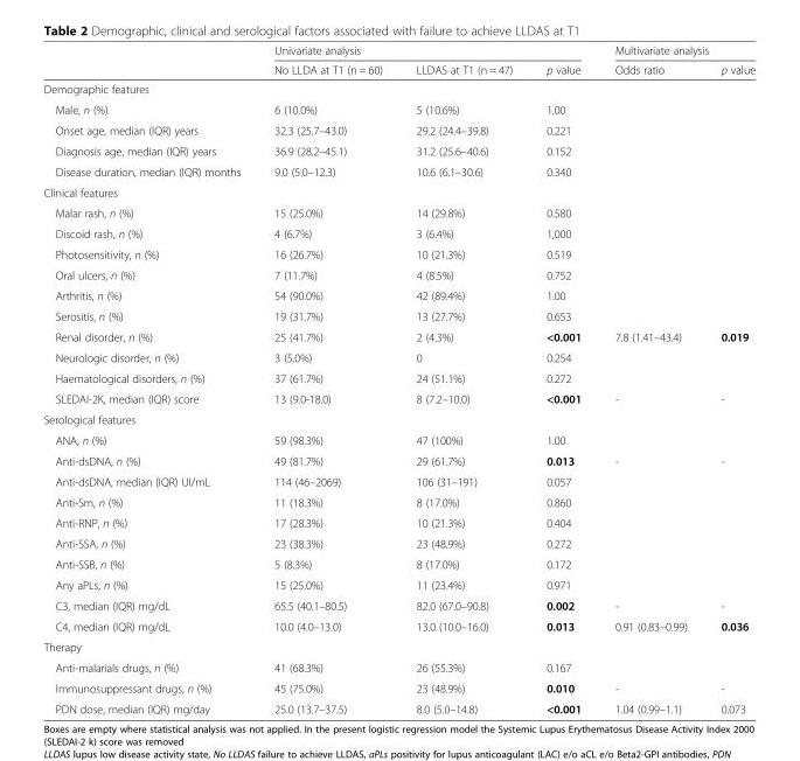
<table><thead><tr><td rowspan="2"></td><td colspan="3">Univariate analysis</td><td colspan="2">Multivariate analysis</td></tr><tr><td>No LLDA at T1 (n = 60)</td><td>LLDAS at T1 (n = 47)</td><td>p value</td><td>Odds ratio</td><td>p value</td></tr></thead><tbody><tr><td colspan="6">Demographic features</td></tr><tr><td>Male, n (%)</td><td>6 (10.0%)</td><td>5 (10.6%)</td><td>1.00</td><td></td><td></td></tr><tr><td>Onset age, median (IQR) years</td><td>32.3 (25.7–43.0)</td><td>29.2 (24.4–39.8)</td><td>0.221</td><td></td><td></td></tr><tr><td>Diagnosis age, median (IQR) years</td><td>36.9 (28.2–45.1)</td><td>31.2 (25.6–40.6)</td><td>0.152</td><td></td><td></td></tr><tr><td>Disease duration, median (IQR) months</td><td>9.0 (5.0–12.3)</td><td>10.6 (6.1–30.6)</td><td>0.340</td><td></td><td></td></tr><tr><td colspan="6">Clinical features</td></tr><tr><td>Malar rash, n (%)</td><td>15 (25.0%)</td><td>14 (29.8%)</td><td>0.580</td><td></td><td></td></tr><tr><td>Discoid rash, n (%)</td><td>4 (6.7%)</td><td>3 (6.4%)</td><td>1,000</td><td></td><td></td></tr><tr><td>Photosensitivity, n (%)</td><td>16 (26.7%)</td><td>10 (21.3%)</td><td>0.519</td><td></td><td></td></tr><tr><td>Oral ulcers, n (%)</td><td>7 (11.7%)</td><td>4 (8.5%)</td><td>0.752</td><td></td><td></td></tr><tr><td>Arthritis, n (%)</td><td>54 (90.0%)</td><td>42 (89.4%)</td><td>1.00</td><td></td><td></td></tr><tr><td>Serositis, n (%)</td><td>19 (31.7%)</td><td>13 (27.7%)</td><td>0.653</td><td></td><td></td></tr><tr><td>Renal disorder, n (%)</td><td>25 (41.7%)</td><td>2 (4.3%)</td><td>&lt;0.001</td><td>7.8 (1.41–43.4)</td><td>0.019</td></tr><tr><td>Neurologic disorder, n (%)</td><td>3 (5.0%)</td><td>0</td><td>0.254</td><td></td><td></td></tr><tr><td>Haematological disorders, n (%)</td><td>37 (61.7%)</td><td>24 (51.1%)</td><td>0.272</td><td></td><td></td></tr><tr><td>SLEDAI-2K, median (IQR) score</td><td>13 (9.0-18.0)</td><td>8 (7.2–10.0)</td><td>&lt;0.001</td><td>-</td><td>-</td></tr><tr><td colspan="6">Serological features</td></tr><tr><td>ANA, n (%)</td><td>59 (98.3%)</td><td>47 (100%)</td><td>1.00</td><td></td><td></td></tr><tr><td>Anti-dsDNA, n (%)</td><td>49 (81.7%)</td><td>29 (61.7%)</td><td>0.013</td><td>-</td><td>-</td></tr><tr><td>Anti-dsDNA, median (IQR) UI/mL</td><td>114 (46–2069)</td><td>106 (31–191)</td><td>0.057</td><td></td><td></td></tr><tr><td>Anti-Sm, n (%)</td><td>11 (18.3%)</td><td>8 (17.0%)</td><td>0.860</td><td></td><td></td></tr><tr><td>Anti-RNP, n (%)</td><td>17 (28.3%)</td><td>10 (21.3%)</td><td>0.404</td><td></td><td></td></tr><tr><td>Anti-SSA, n (%)</td><td>23 (38.3%)</td><td>23 (48.9%)</td><td>0.272</td><td></td><td></td></tr><tr><td>Anti-SSB, n (%)</td><td>5 (8.3%)</td><td>8 (17.0%)</td><td>0.172</td><td></td><td></td></tr><tr><td>Any aPLs, n (%)</td><td>15 (25.0%)</td><td>11 (23.4%)</td><td>0.971</td><td></td><td></td></tr><tr><td>C3, median (IQR) mg/dL</td><td>65.5 (40.1–80.5)</td><td>82.0 (67.0–90.8)</td><td>0.002</td><td>-</td><td>-</td></tr><tr><td>C4, median (IQR) mg/dL</td><td>10.0 (4.0–13.0)</td><td>13.0 (10.0–16.0)</td><td>0.013</td><td>0.91 (0.83–0.99)</td><td>0.036</td></tr><tr><td colspan="6">Therapy</td></tr><tr><td>Anti-malarials drugs, n (%)</td><td>41 (68.3%)</td><td>26 (55.3%)</td><td>0.167</td><td></td><td></td></tr><tr><td>Immunosuppressant drugs, n (%)</td><td>45 (75.0%)</td><td>23 (48.9%)</td><td>0.010</td><td>-</td><td>-</td></tr><tr><td>PDN dose, median (IQR) mg/day</td><td>25.0 (13.7–37.5)</td><td>8.0 (5.0–14.8)</td><td>&lt;0.001</td><td>1.04 (0.99–1.1)</td><td>0.073</td></tr></tbody></table>